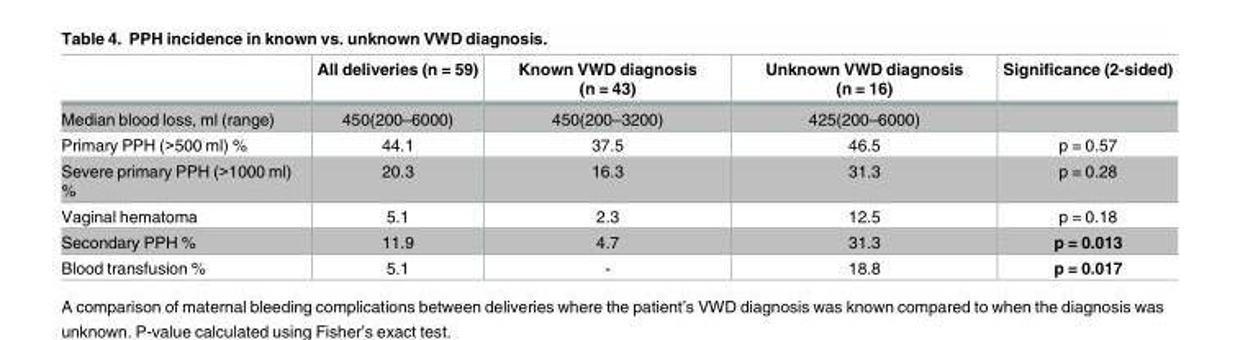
<table><thead><tr><td></td><td>All deliveries (n = 59)</td><td>Known VWD diagnosis (n = 43)</td><td>Unknown VWD diagnosis (n = 16)</td><td>Significance (2-sided)</td></tr></thead><tbody><tr><td>Median blood loss, ml (range)</td><td>450(200–6000)</td><td>450(200–3200)</td><td>425(200–6000)</td><td></td></tr><tr><td>Primary PPH (&gt;500 ml) %</td><td>44.1</td><td>37.5</td><td>46.5</td><td>p = 0.57</td></tr><tr><td>Severe primary PPH (&gt;1000 ml) %</td><td>20.3</td><td>16.3</td><td>31.3</td><td>p = 0.28</td></tr><tr><td>Vaginal hematoma</td><td>5.1</td><td>2.3</td><td>12.5</td><td>p = 0.18</td></tr><tr><td>Secondary PPH %</td><td>11.9</td><td>4.7</td><td>31.3</td><td>p = 0.013</td></tr><tr><td>Blood transfusion %</td><td>5.1</td><td>-</td><td>18.8</td><td>p = 0.017</td></tr></tbody></table>